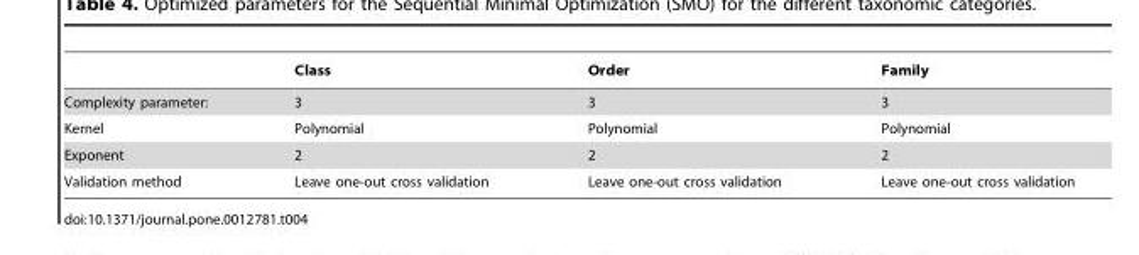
<table><thead><tr><td></td><td>Class</td><td>Order</td><td>Family</td></tr></thead><tbody><tr><td>Complexity parameter:</td><td>3</td><td>3</td><td>3</td></tr><tr><td>Kernel</td><td>Polynomial</td><td>Polynomial</td><td>Polynomial</td></tr><tr><td>Exponent</td><td>2</td><td>2</td><td>2</td></tr><tr><td>Validation method</td><td>Leave one-out cross validation</td><td>Leave one-out cross validation</td><td>Leave one-out cross validation</td></tr></tbody></table>